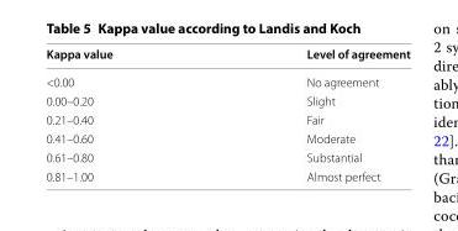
<table><thead><tr><td>Kappa value</td><td>Level of agreement</td></tr></thead><tbody><tr><td>&lt;0.00</td><td>No agreement</td></tr><tr><td>0.00–0.20</td><td>Slight</td></tr><tr><td>0.21–0.40</td><td>Fair</td></tr><tr><td>0.41–0.60</td><td>Moderate</td></tr><tr><td>0.61–0.80</td><td>Substantial</td></tr><tr><td>0.81–1.00</td><td>Almost perfect</td></tr></tbody></table>